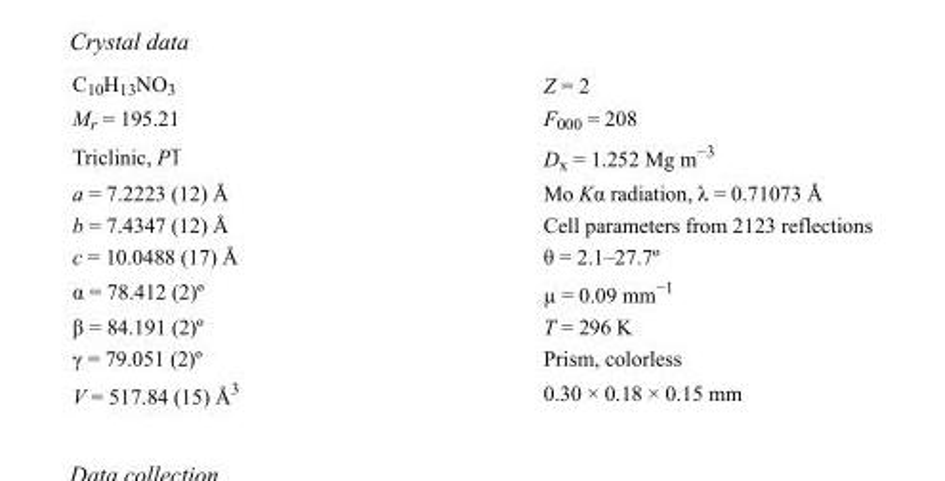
<table><tbody><tr><td>C<sub>10</sub>H<sub>13</sub>NO<sub>3</sub></td><td>Z = 2</td></tr><tr><td>M<sub>r</sub> = 195.21</td><td>F000 = 208</td></tr><tr><td>Triclinic, P1</td><td>D<sub>x</sub> = 1.252 Mg m<sup>−3</sup></td></tr><tr><td>a = 7.2223 (12) Å</td><td>Mo Kα radiation, λ = 0.71073 Å</td></tr><tr><td>b = 7.4347 (12) Å</td><td>Cell parameters from 2123 reflections</td></tr><tr><td>c = 10.0488 (17) Å</td><td>θ = 2.1–27.7º</td></tr><tr><td>α = 78.412 (2)º</td><td>µ = 0.09 mm<sup>−1</sup></td></tr><tr><td>β = 84.191 (2)º</td><td>T = 296 K</td></tr><tr><td>γ = 79.051 (2)º</td><td>Prism, colorless</td></tr><tr><td>V = 517.84 (15) Å<sup>3</sup></td><td>0.30 × 0.18 × 0.15 mm</td></tr></tbody></table>